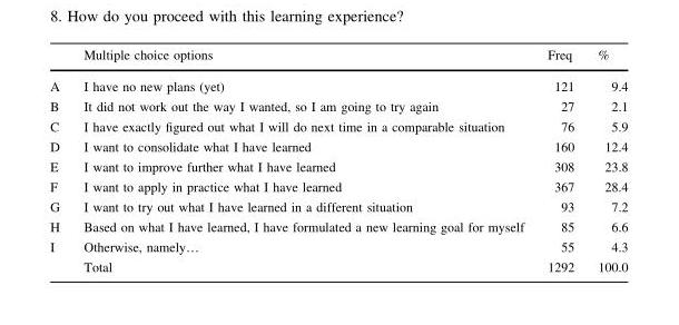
<table><thead><tr><td></td><td>Multiple choice options</td><td>Freq</td><td>%</td></tr></thead><tbody><tr><td>A</td><td>I have no new plans (yet)</td><td>121</td><td>9.4</td></tr><tr><td>B</td><td>It did not work out the way I wanted, so I am going to try again</td><td>27</td><td>2.1</td></tr><tr><td>C</td><td>I have exactly figured out what I will do next time in a comparable situation</td><td>76</td><td>5.9</td></tr><tr><td>D</td><td>I want to consolidate what I have learned</td><td>160</td><td>12.4</td></tr><tr><td>E</td><td>I want to improve further what I have learned</td><td>308</td><td>23.8</td></tr><tr><td>F</td><td>I want to apply in practice what I have learned</td><td>367</td><td>28.4</td></tr><tr><td>G</td><td>I want to try out what I have learned in a different situation</td><td>93</td><td>7.2</td></tr><tr><td>H</td><td>Based on what I have learned, I have formulated a new learning goal for myself</td><td>85</td><td>6.6</td></tr><tr><td rowspan="2">I</td><td>Otherwise, namely…</td><td>55</td><td>4.3</td></tr><tr><td>Total</td><td>1292</td><td>100.0</td></tr></tbody></table>